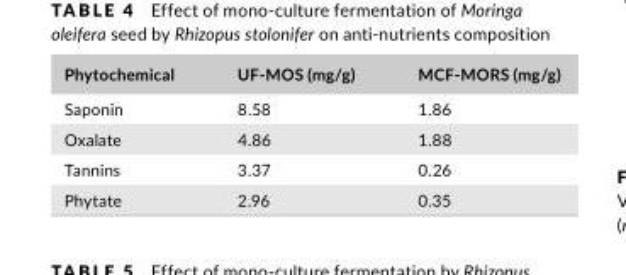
<table><thead><tr><td>Phytochemical</td><td>UF- MOS (mg/g)</td><td>MCF- MORS (mg/g)</td></tr></thead><tbody><tr><td>Saponin</td><td>8.58</td><td>1.86</td></tr><tr><td>Oxalate</td><td>4.86</td><td>1.88</td></tr><tr><td>Tannins</td><td>3.37</td><td>0.26</td></tr><tr><td>Phytate</td><td>2.96</td><td>0.35</td></tr></tbody></table>